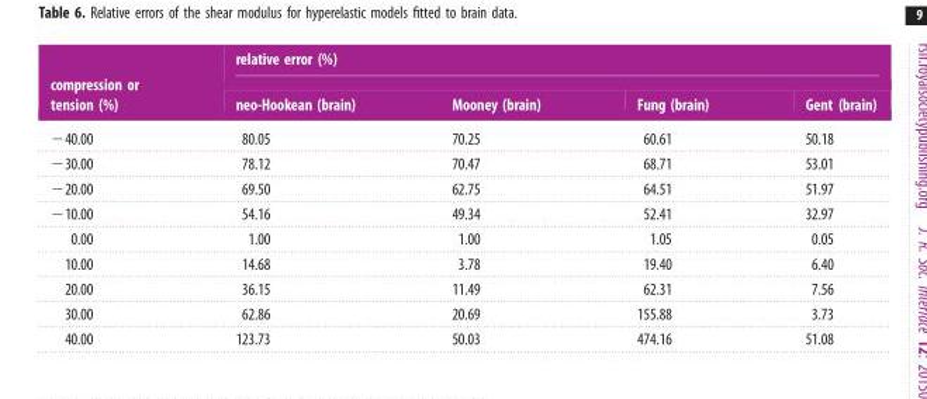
<table><thead><tr><td rowspan="2">compression or tension (%)</td><td colspan="4">relative error (%)</td></tr><tr><td>neo-Hookean (brain)</td><td>Mooney (brain)</td><td>Fung (brain)</td><td>Gent (brain)</td></tr></thead><tbody><tr><td>−40.00</td><td>80.05</td><td>70.25</td><td>60.61</td><td>50.18</td></tr><tr><td>−30.00</td><td>78.12</td><td>70.47</td><td>68.71</td><td>53.01</td></tr><tr><td>−20.00</td><td>69.50</td><td>62.75</td><td>64.51</td><td>51.97</td></tr><tr><td>−10.00</td><td>54.16</td><td>49.34</td><td>52.41</td><td>32.97</td></tr><tr><td>0.00</td><td>1.00</td><td>1.00</td><td>1.05</td><td>0.05</td></tr><tr><td>10.00</td><td>14.68</td><td>3.78</td><td>19.40</td><td>6.40</td></tr><tr><td>20.00</td><td>36.15</td><td>11.49</td><td>62.31</td><td>7.56</td></tr><tr><td>30.00</td><td>62.86</td><td>20.69</td><td>155.88</td><td>3.73</td></tr><tr><td>40.00</td><td>123.73</td><td>50.03</td><td>474.16</td><td>51.08</td></tr></tbody></table>